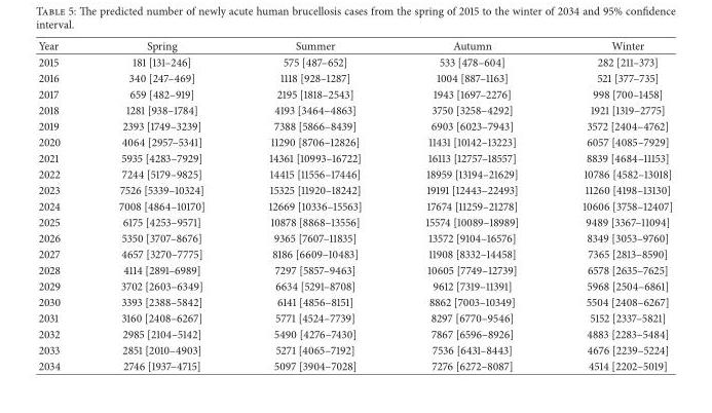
<table><thead><tr><td>Year</td><td>Spring</td><td>Summer</td><td>Autumn</td><td>Winter</td></tr></thead><tbody><tr><td>2015</td><td>181 [131–246]</td><td>575 [487–652]</td><td>533 [478–604]</td><td>282 [211–373]</td></tr><tr><td>2016</td><td>340 [247–469]</td><td>1118 [928–1287]</td><td>1004 [887–1163]</td><td>521 [377–735]</td></tr><tr><td>2017</td><td>659 [482–919]</td><td>2195 [1818–2543]</td><td>1943 [1697–2276]</td><td>998 [700–1458]</td></tr><tr><td>2018</td><td>1281 [938–1784]</td><td>4193 [3464–4863]</td><td>3750 [3258–4292]</td><td>1921 [1319–2775]</td></tr><tr><td>2019</td><td>2393 [1749–3239]</td><td>7388 [5866–8439]</td><td>6903 [6023–7943]</td><td>3572 [2404–4762]</td></tr><tr><td>2020</td><td>4064 [2957–5341]</td><td>11290 [8706–12826]</td><td>11431 [10142–13223]</td><td>6057 [4085–7929]</td></tr><tr><td>2021</td><td>5935 [4283–7929]</td><td>14361 [10993–16722]</td><td>16113 [12757–18557]</td><td>8839 [4684–11153]</td></tr><tr><td>2022</td><td>7244 [5179–9825]</td><td>14415 [11556–17446]</td><td>18959 [13194–21629]</td><td>10786 [4582–13018]</td></tr><tr><td>2023</td><td>7526 [5339–10324]</td><td>15325 [11920–18242]</td><td>19191 [12443–22493]</td><td>11260 [4198–13130]</td></tr><tr><td>2024</td><td>7008 [4864–10170]</td><td>12669 [10336–15563]</td><td>17674 [11259–21278]</td><td>10606 [3758–12407]</td></tr><tr><td>2025</td><td>6175 [4253–9571]</td><td>10878 [8868–13556]</td><td>15574 [10089–18989]</td><td>9489 [3367–11094]</td></tr><tr><td>2026</td><td>5350 [3707–8676]</td><td>9365 [7607–11835]</td><td>13572 [9104–16576]</td><td>8349 [3053–9760]</td></tr><tr><td>2027</td><td>4657 [3270–7775]</td><td>8186 [6609–10483]</td><td>11908 [8332–14458]</td><td>7365 [2813–8590]</td></tr><tr><td>2028</td><td>4114 [2891–6989]</td><td>7297 [5857–9463]</td><td>10605 [7749–12739]</td><td>6578 [2635–7625]</td></tr><tr><td>2029</td><td>3702 [2603–6349]</td><td>6634 [5291–8708]</td><td>9612 [7319–11391]</td><td>5968 [2504–6861]</td></tr><tr><td>2030</td><td>3393 [2388–5842]</td><td>6141 [4856–8151]</td><td>8862 [7003–10349]</td><td>5504 [2408–6267]</td></tr><tr><td>2031</td><td>3160 [2408–6267]</td><td>5771 [4524–7739]</td><td>8297 [6770–9546]</td><td>5152 [2337–5821]</td></tr><tr><td>2032</td><td>2985 [2104–5142]</td><td>5490 [4276–7430]</td><td>7867 [6596–8926]</td><td>4883 [2283–5484]</td></tr><tr><td>2033</td><td>2851 [2010–4903]</td><td>5271 [4065–7192]</td><td>7536 [6431–8443]</td><td>4676 [2239–5224]</td></tr><tr><td>2034</td><td>2746 [1937–4715]</td><td>5097 [3904–7028]</td><td>7276 [6272–8087]</td><td>4514 [2202–5019]</td></tr></tbody></table>